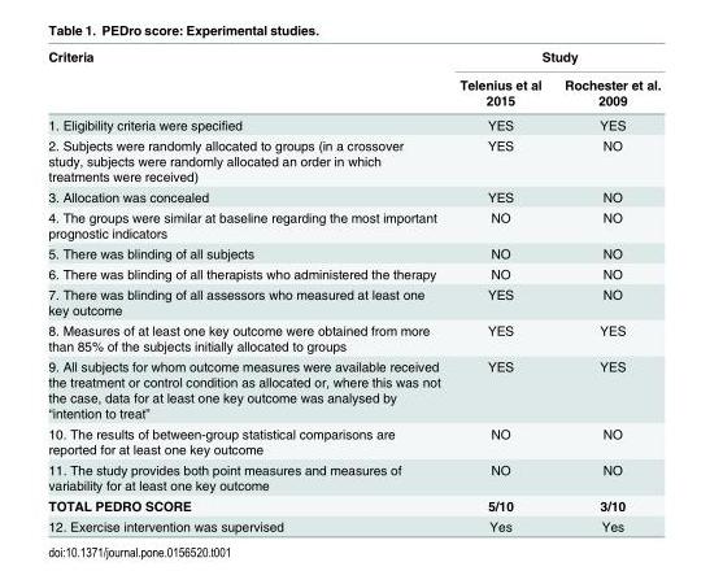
<table><thead><tr><td rowspan="2">Criteria</td><td colspan="2">Study</td></tr><tr><td>Telenius et al 2015</td><td>Rochester et al. 2009</td></tr></thead><tbody><tr><td>1. Eligibility criteria were specified</td><td>YES</td><td>YES</td></tr><tr><td>2. Subjects were randomly allocated to groups (in a crossover study, subjects were randomly allocated an order in which treatments were received)</td><td>YES</td><td>NO</td></tr><tr><td>3. Allocation was concealed</td><td>YES</td><td>NO</td></tr><tr><td>4. The groups were similar at baseline regarding the most important prognostic indicators</td><td>NO</td><td>NO</td></tr><tr><td>5. There was blinding of all subjects</td><td>NO</td><td>NO</td></tr><tr><td>6. There was blinding of all therapists who administered the therapy</td><td>NO</td><td>NO</td></tr><tr><td>7. There was blinding of all assessors who measured at least one key outcome</td><td>YES</td><td>NO</td></tr><tr><td>8. Measures of at least one key outcome were obtained from more than 85% of the subjects initially allocated to groups</td><td>YES</td><td>YES</td></tr><tr><td>9. All subjects for whom outcome measures were available received the treatment or control condition as allocated or, where this was not the case, data for at least one key outcome was analysed by “intention to treat”</td><td>YES</td><td>YES</td></tr><tr><td>10. The results of between-group statistical comparisons are reported for at least one key outcome</td><td>NO</td><td>NO</td></tr><tr><td>11. The study provides both point measures and measures of variability for at least one key outcome</td><td>NO</td><td>NO</td></tr><tr><td>TOTAL PEDRO SCORE</td><td>5/10</td><td>3/10</td></tr><tr><td>12. Exercise intervention was supervised</td><td>Yes</td><td>Yes</td></tr></tbody></table>